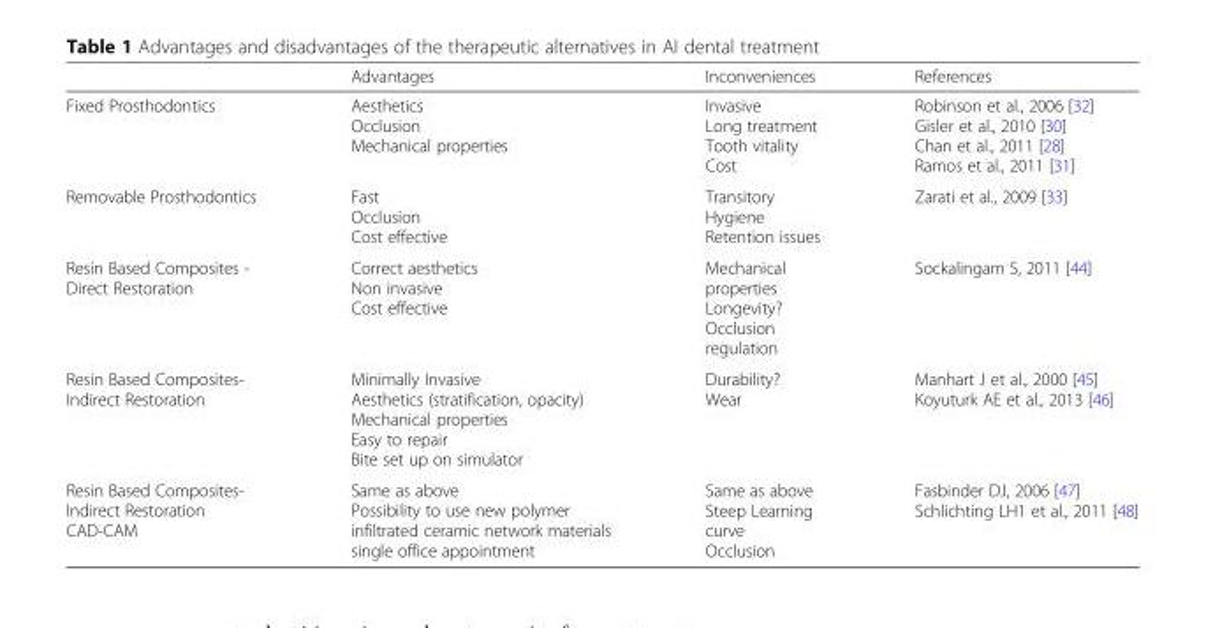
<table><thead><tr><td></td><td>Advantages</td><td>Inconveniences</td><td>References</td></tr></thead><tbody><tr><td>Fixed Prosthodontics</td><td>Aesthetics Occlusion Mechanical properties</td><td>Invasive Long treatment Tooth vitality Cost</td><td>Robinson et al., 2006 [32] Gisler et al., 2010 [30] Chan et al., 2011 [28] Ramos et al., 2011 [31]</td></tr><tr><td>Removable Prosthodontics</td><td>Fast Occlusion Cost effective</td><td>Transitory Hygiene Retention issues</td><td>Zarati et al., 2009 [33]</td></tr><tr><td>Resin Based Composites - Direct Restoration</td><td>Correct aesthetics Non invasive Cost effective</td><td>Mechanical properties Longevity? Occlusion regulation</td><td>Sockalingam S, 2011 [44]</td></tr><tr><td>Resin Based Composites- Indirect Restoration</td><td>Minimally Invasive Aesthetics (stratification, opacity) Mechanical properties Easy to repair Bite set up on simulator</td><td>Durability? Wear</td><td>Manhart J et al., 2000 [45] Koyuturk AE et al., 2013 [46]</td></tr><tr><td>Resin Based Composites- Indirect Restoration CAD-CAM</td><td>Same as above Possibility to use new polymer infiltrated ceramic network materials single office appointment</td><td>Same as above Steep Learning curve Occlusion</td><td>Fasbinder DJ, 2006 [47] Schlichting LH1 et al., 2011 [48]</td></tr></tbody></table>